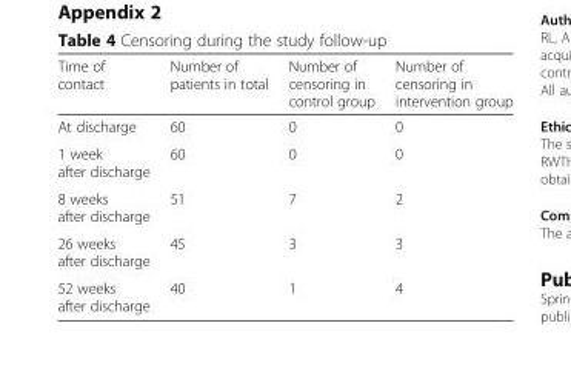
<table><thead><tr><td>Time of contact</td><td>Number of patients in total</td><td>Number of censoring in control group</td><td>Number of censoring in intervention group</td></tr></thead><tbody><tr><td>At discharge</td><td>60</td><td>0</td><td>0</td></tr><tr><td>1 week after discharge</td><td>60</td><td>0</td><td>0</td></tr><tr><td>8 weeks after discharge</td><td>51</td><td>7</td><td>2</td></tr><tr><td>26 weeks after discharge</td><td>45</td><td>3</td><td>3</td></tr><tr><td>52 weeks after discharge</td><td>40</td><td>1</td><td>4</td></tr></tbody></table>